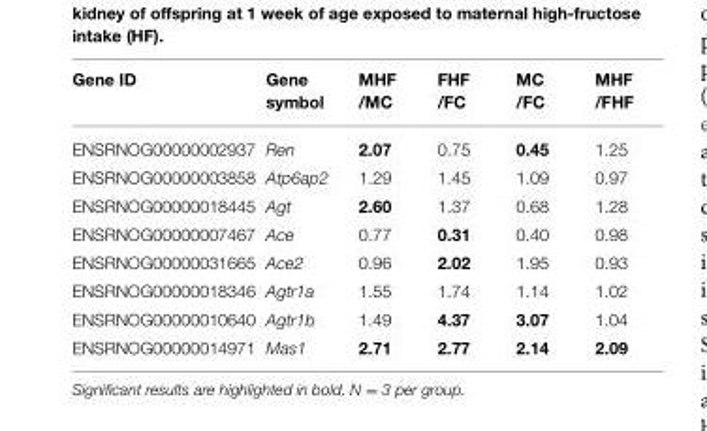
<table><thead><tr><td>Gene ID</td><td>Gene symbol</td><td>MHF /MC</td><td>FHF /FC</td><td>MC /FC</td><td>MHF /FHF</td></tr></thead><tbody><tr><td>ENSRNOG00000002937</td><td>Ren</td><td>2.07</td><td>0.75</td><td>0.45</td><td>1.25</td></tr><tr><td>ENSRNOG00000003858</td><td>Atp6ap2</td><td>1.29</td><td>1.45</td><td>1.09</td><td>0.97</td></tr><tr><td>ENSRNOG00000018445</td><td>Agt</td><td>2.60</td><td>1.37</td><td>0.68</td><td>1.28</td></tr><tr><td>ENSRNOG00000007467</td><td>Ace</td><td>0.77</td><td>0.31</td><td>0.40</td><td>0.98</td></tr><tr><td>ENSRNOG00000031665</td><td>Ace2</td><td>0.96</td><td>2.02</td><td>1.95</td><td>0.93</td></tr><tr><td>ENSRNOG00000018346</td><td>Agtr1a</td><td>1.55</td><td>1.74</td><td>1.14</td><td>1.02</td></tr><tr><td>ENSRNOG00000010640</td><td>Agtr1b</td><td>1.49</td><td>4.37</td><td>3.07</td><td>1.04</td></tr><tr><td>ENSRNOG00000014971</td><td>Mas1</td><td>2.71</td><td>2.77</td><td>2.14</td><td>2.09</td></tr></tbody></table>